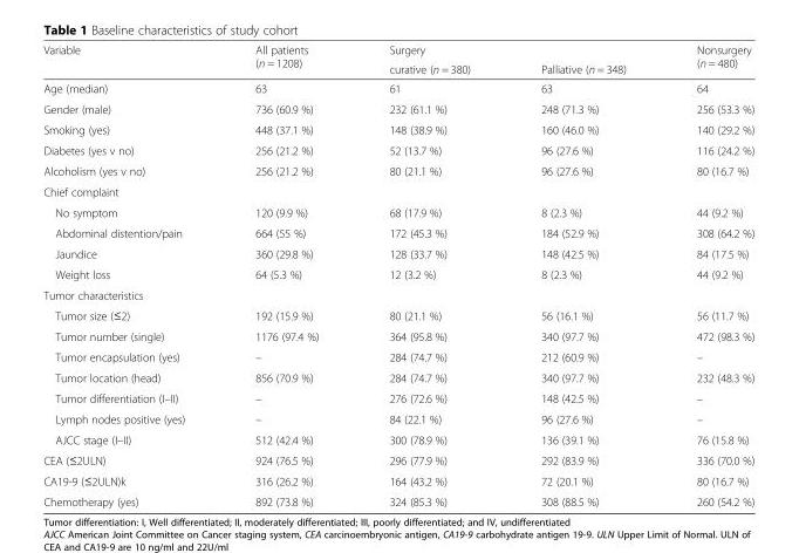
<table><thead><tr><td rowspan="2">Variable</td><td rowspan="2">All patients (n = 1208)</td><td colspan="2">Surgery</td><td rowspan="2">Nonsurgery (n = 480)</td></tr><tr><td>curative (n = 380)</td><td>Palliative (n = 348)</td></tr></thead><tbody><tr><td>Age (median)</td><td>63</td><td>61</td><td>63</td><td>64</td></tr><tr><td>Gender (male)</td><td>736 (60.9 %)</td><td>232 (61.1 %)</td><td>248 (71.3 %)</td><td>256 (53.3 %)</td></tr><tr><td>Smoking (yes)</td><td>448 (37.1 %)</td><td>148 (38.9 %)</td><td>160 (46.0 %)</td><td>140 (29.2 %)</td></tr><tr><td>Diabetes (yes v no)</td><td>256 (21.2 %)</td><td>52 (13.7 %)</td><td>96 (27.6 %)</td><td>116 (24.2 %)</td></tr><tr><td>Alcoholism (yes v no)</td><td>256 (21.2 %)</td><td>80 (21.1 %)</td><td>96 (27.6 %)</td><td>80 (16.7 %)</td></tr><tr><td colspan="5">Chief complaint</td></tr><tr><td>No symptom</td><td>120 (9.9 %)</td><td>68 (17.9 %)</td><td>8 (2.3 %)</td><td>44 (9.2 %)</td></tr><tr><td>Abdominal distention/pain</td><td>664 (55 %)</td><td>172 (45.3 %)</td><td>184 (52.9 %)</td><td>308 (64.2 %)</td></tr><tr><td>Jaundice</td><td>360 (29.8 %)</td><td>128 (33.7 %)</td><td>148 (42.5 %)</td><td>84 (17.5 %)</td></tr><tr><td>Weight loss</td><td>64 (5.3 %)</td><td>12 (3.2 %)</td><td>8 (2.3 %)</td><td>44 (9.2 %)</td></tr><tr><td colspan="5">Tumor characteristics</td></tr><tr><td>Tumor size (≤2)</td><td>192 (15.9 %)</td><td>80 (21.1 %)</td><td>56 (16.1 %)</td><td>56 (11.7 %)</td></tr><tr><td>Tumor number (single)</td><td>1176 (97.4 %)</td><td>364 (95.8 %)</td><td>340 (97.7 %)</td><td>472 (98.3 %)</td></tr><tr><td>Tumor encapsulation (yes)</td><td>–</td><td>284 (74.7 %)</td><td>212 (60.9 %)</td><td>–</td></tr><tr><td>Tumor location (head)</td><td>856 (70.9 %)</td><td>284 (74.7 %)</td><td>340 (97.7 %)</td><td>232 (48.3 %)</td></tr><tr><td>Tumor differentiation (I–II)</td><td>–</td><td>276 (72.6 %)</td><td>148 (42.5 %)</td><td>–</td></tr><tr><td>Lymph nodes positive (yes)</td><td>–</td><td>84 (22.1 %)</td><td>96 (27.6 %)</td><td>–</td></tr><tr><td>AJCC stage (I–II)</td><td>512 (42.4 %)</td><td>300 (78.9 %)</td><td>136 (39.1 %)</td><td>76 (15.8 %)</td></tr><tr><td>CEA (≤2ULN)</td><td>924 (76.5 %)</td><td>296 (77.9 %)</td><td>292 (83.9 %)</td><td>336 (70.0 %)</td></tr><tr><td>CA19-9 (≤2ULN)k</td><td>316 (26.2 %)</td><td>164 (43.2 %)</td><td>72 (20.1 %)</td><td>80 (16.7 %)</td></tr><tr><td>Chemotherapy (yes)</td><td>892 (73.8 %)</td><td>324 (85.3 %)</td><td>308 (88.5 %)</td><td>260 (54.2 %)</td></tr></tbody></table>